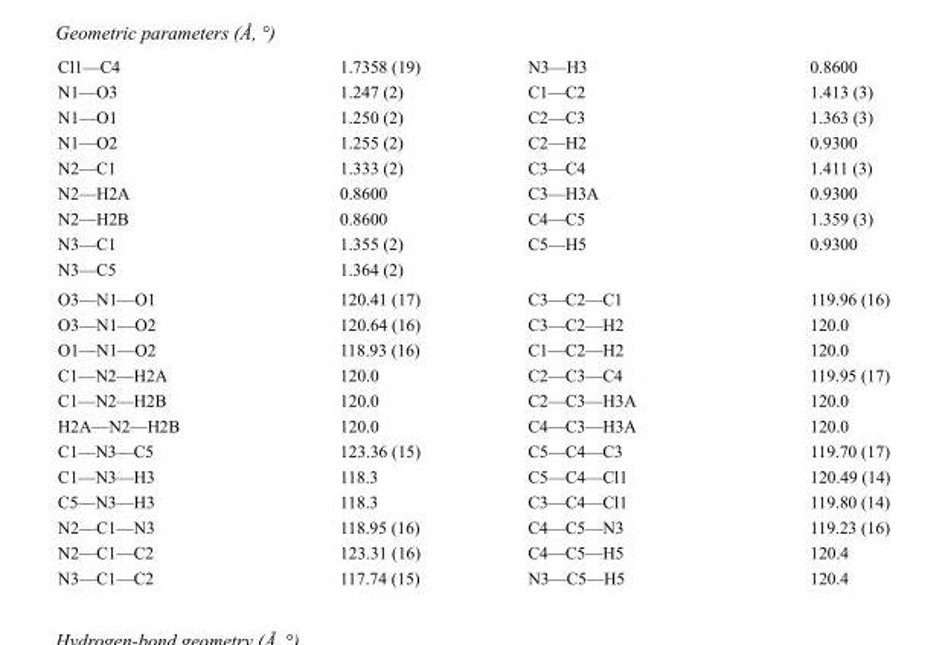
<table><tbody><tr><td>Cl1—C4</td><td>1.7358 (19)</td><td>N3—H3</td><td>0.8600</td></tr><tr><td>N1—O3</td><td>1.247 (2)</td><td>C1—C2</td><td>1.413 (3)</td></tr><tr><td>N1—O1</td><td>1.250 (2)</td><td>C2—C3</td><td>1.363 (3)</td></tr><tr><td>N1—O2</td><td>1.255 (2)</td><td>C2—H2</td><td>0.9300</td></tr><tr><td>N2—C1</td><td>1.333 (2)</td><td>C3—C4</td><td>1.411 (3)</td></tr><tr><td>N2—H2A</td><td>0.8600</td><td>C3—H3A</td><td>0.9300</td></tr><tr><td>N2—H2B</td><td>0.8600</td><td>C4—C5</td><td>1.359 (3)</td></tr><tr><td>N3—C1</td><td>1.355 (2)</td><td>C5—H5</td><td>0.9300</td></tr><tr><td>N3—C5</td><td>1.364 (2)</td><td></td><td></td></tr><tr><td>O3—N1—O1</td><td>120.41 (17)</td><td>C3—C2—C1</td><td>119.96 (16)</td></tr><tr><td>O3—N1—O2</td><td>120.64 (16)</td><td>C3—C2—H2</td><td>120.0</td></tr><tr><td>O1—N1—O2</td><td>118.93 (16)</td><td>C1—C2—H2</td><td>120.0</td></tr><tr><td>C1—N2—H2A</td><td>120.0</td><td>C2—C3—C4</td><td>119.95 (17)</td></tr><tr><td>C1—N2—H2B</td><td>120.0</td><td>C2—C3—H3A</td><td>120.0</td></tr><tr><td>H2A—N2—H2B</td><td>120.0</td><td>C4—C3—H3A</td><td>120.0</td></tr><tr><td>C1—N3—C5</td><td>123.36 (15)</td><td>C5—C4—C3</td><td>119.70 (17)</td></tr><tr><td>C1—N3—H3</td><td>118.3</td><td>C5—C4—Cl1</td><td>120.49 (14)</td></tr><tr><td>C5—N3—H3</td><td>118.3</td><td>C3—C4—Cl1</td><td>119.80 (14)</td></tr><tr><td>N2—C1—N3</td><td>118.95 (16)</td><td>C4—C5—N3</td><td>119.23 (16)</td></tr><tr><td>N2—C1—C2</td><td>123.31 (16)</td><td>C4—C5—H5</td><td>120.4</td></tr><tr><td>N3—C1—C2</td><td>117.74 (15)</td><td>N3—C5—H5</td><td>120.4</td></tr></tbody></table>